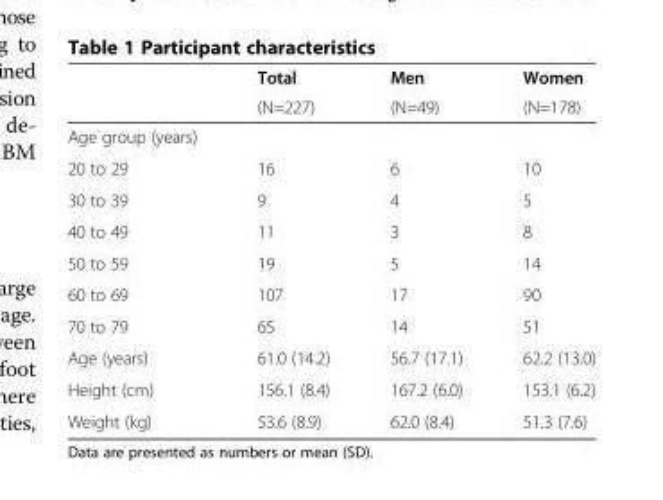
<table><thead><tr><td rowspan="2"></td><td rowspan="2">Total (N=227)</td><td rowspan="2">Men (N=49)</td><td rowspan="2">Women (N=178)</td></tr><tr></tr></thead><tbody><tr><td colspan="4">Age group (years)</td></tr><tr><td>20 to 29</td><td>16</td><td>6</td><td>10</td></tr><tr><td>30 to 39</td><td>9</td><td>4</td><td>5</td></tr><tr><td>40 to 49</td><td>11</td><td>3</td><td>8</td></tr><tr><td>50 to 59</td><td>19</td><td>5</td><td>14</td></tr><tr><td>60 to 69</td><td>107</td><td>17</td><td>90</td></tr><tr><td>70 to 79</td><td>65</td><td>14</td><td>51</td></tr><tr><td>Age (years)</td><td>61.0 (14.2)</td><td>56.7 (17.1)</td><td>62.2 (13.0)</td></tr><tr><td>Height (cm)</td><td>156.1 (8.4)</td><td>167.2 (6.0)</td><td>153.1 (6.2)</td></tr><tr><td>Weight (kg)</td><td>53.6 (8.9)</td><td>62.0 (8.4)</td><td>51.3 (7.6)</td></tr></tbody></table>